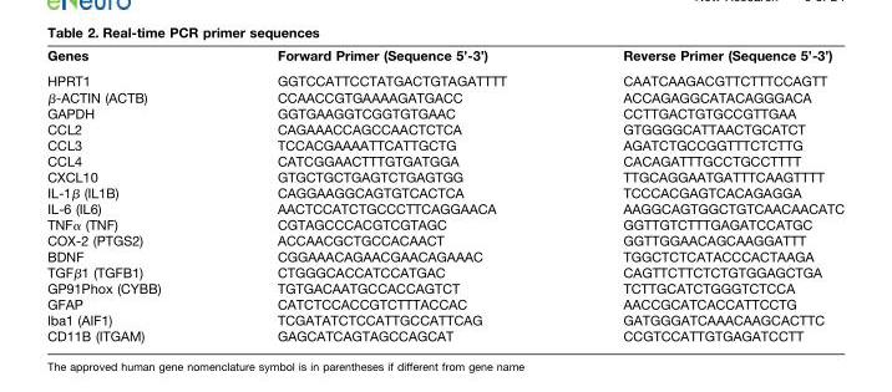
<table><thead><tr><td>Genes</td><td>Forward Primer (Sequence 5’-3’)</td><td>Reverse Primer (Sequence 5’-3’)</td></tr></thead><tbody><tr><td>HPRT1</td><td>GGTCCATTCCTATGACTGTAGATTTT</td><td>CAATCAAGACGTTCTTTCCAGTT</td></tr><tr><td>β-ACTIN (ACTB)</td><td>CCAACCGTGAAAAGATGACC</td><td>ACCAGAGGCATACAGGGACA</td></tr><tr><td>GAPDH</td><td>GGTGAAGGTCGGTGTGAAC</td><td>CCTTGACTGTGCCGTTGAA</td></tr><tr><td>CCL2</td><td>CAGAAACCAGCCAACTCTCA</td><td>GTGGGGCATTAACTGCATCT</td></tr><tr><td>CCL3</td><td>TCCACGAAAATTCATTGCTG</td><td>AGATCTGCCGGTTTCTCTTG</td></tr><tr><td>CCL4</td><td>CATCGGAACTTTGTGATGGA</td><td>CACAGATTTGCCTGCCTTTT</td></tr><tr><td>CXCL10</td><td>GTGCTGCTGAGTCTGAGTGG</td><td>TTGCAGGAATGATTTCAAGTTTT</td></tr><tr><td>IL-1β (IL1B)</td><td>CAGGAAGGCAGTGTCACTCA</td><td>TCCCACGAGTCACAGAGGA</td></tr><tr><td>IL-6 (IL6)</td><td>AACTCCATCTGCCCTTCAGGAACA</td><td>AAGGCAGTGGCTGTCAACAACATC</td></tr><tr><td>TNFα (TNF)</td><td>CGTAGCCCACGTCGTAGC</td><td>GGTTGTCTTTGAGATCCATGC</td></tr><tr><td>COX-2 (PTGS2)</td><td>ACCAACGCTGCCACAACT</td><td>GGTTGGAACAGCAAGGATTT</td></tr><tr><td>BDNF</td><td>CGGAAACAGAACGAACAGAAAC</td><td>TGGCTCTCATACCCACTAAGA</td></tr><tr><td>TGFβ1 (TGFB1)</td><td>CTGGGCACCATCCATGAC</td><td>CAGTTCTTCTCTGTGGAGCTGA</td></tr><tr><td>GP91Phox (CYBB)</td><td>TGTGACAATGCCACCAGTCT</td><td>TCTTGCATCTGGGTCTCCA</td></tr><tr><td>GFAP</td><td>CATCTCCACCGTCTTTACCAC</td><td>AACCGCATCACCATTCCTG</td></tr><tr><td>lba1 (AIF1)</td><td>TCGATATCTCCATTGCCATTCAG</td><td>GATGGGATCAAACAAGCACTTC</td></tr><tr><td>CD11B (ITGAM)</td><td>GAGCATCAGTAGCCAGCAT</td><td>CCGTCCATTGTGAGATCCTT</td></tr></tbody></table>